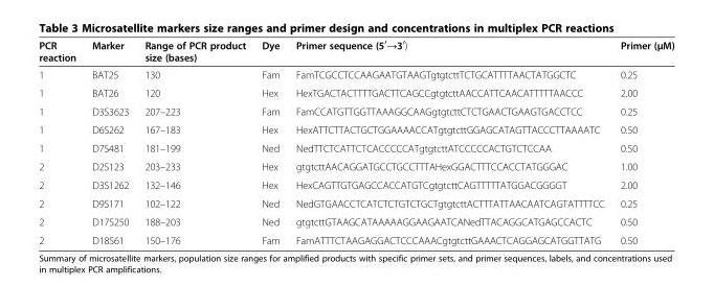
<table><thead><tr><td>PCR reaction</td><td>Marker</td><td>Range of PCR product size (bases)</td><td>Dye</td><td>Primer sequence (5<sup>′</sup>→3<sup>′</sup>)</td><td>Primer (μM)</td></tr></thead><tbody><tr><td>1</td><td>BAT25</td><td>130</td><td>Fam</td><td>FamTCGCCTCCAAGAATGTAAGTgtgtcttTCTGCATTTTAACTATGGCTC</td><td>0.25</td></tr><tr><td>1</td><td>BAT26</td><td>120</td><td>Hex</td><td>HexTGACTACTTTTGACTTCAGCCgtgtcttAACCATTCAACATTTTTAACCC</td><td>2.00</td></tr><tr><td>1</td><td>D3S3623</td><td>207–223</td><td>Fam</td><td>FamCCATGTTGGTTAAAGGCAAGgtgtcttCTCTGAACTGAAGTGACCTCC</td><td>0.25</td></tr><tr><td>1</td><td>D6S262</td><td>167–183</td><td>Hex</td><td>HexATTCTTACTGCTGGAAAACCATgtgtcttGGAGCATAGTTACCCTTAAAATC</td><td>0.50</td></tr><tr><td>1</td><td>D7S481</td><td>181–199</td><td>Ned</td><td>NedTTCTCATTCTCACCCCCATgtgtcttATCCCCCACTGTCTCCAA</td><td>0.50</td></tr><tr><td>2</td><td>D2S123</td><td>203–233</td><td>Hex</td><td>gtgtcttAACAGGATGCCTGCCTTTAHexGGACTTTCCACCTATGGGAC</td><td>1.00</td></tr><tr><td>2</td><td>D3S1262</td><td>132–146</td><td>Hex</td><td>HexCAGTTGTGAGCCACCATGTCgtgtcttCAGTTTTTATGGACGGGGT</td><td>2.00</td></tr><tr><td>2</td><td>D9S171</td><td>102–122</td><td>Ned</td><td>NedGTGAACCTCATCTCTGTCTGCTgtgtcttACTTTATTAACAATCAGTATTTTCC</td><td>0.25</td></tr><tr><td>2</td><td>D17S250</td><td>188–203</td><td>Ned</td><td>gtgtcttGTAAGCATAAAAAGGAAGAATCANedTTACAGGCATGAGCCACTC</td><td>0.50</td></tr><tr><td>2</td><td>D18S61</td><td>150–176</td><td>Fam</td><td>FamATTTCTAAGAGGACTCCCAAACgtgtcttGAAACTCAGGAGCATGGTTATG</td><td>0.50</td></tr></tbody></table>